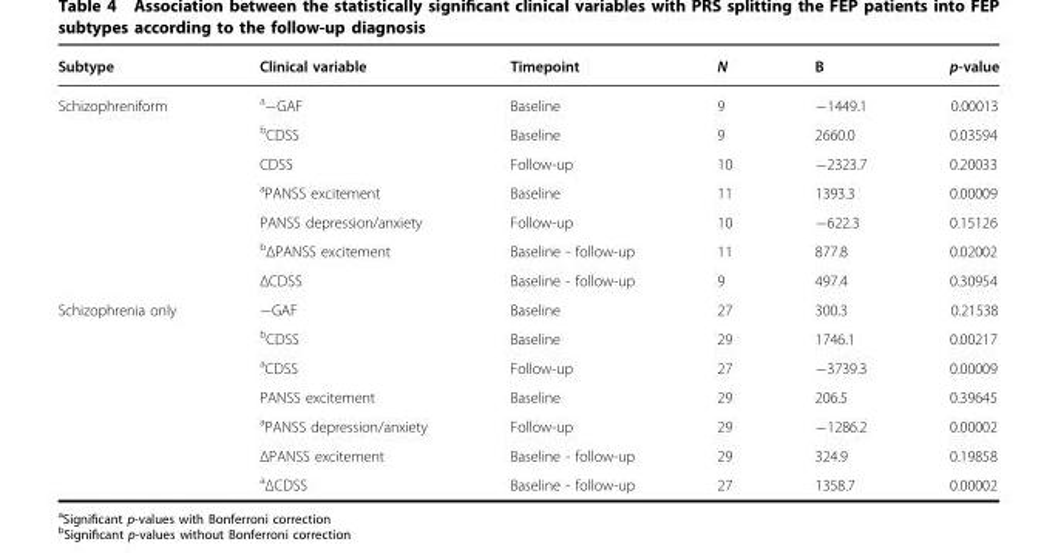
<table><thead><tr><td>Subtype</td><td>Clinical variable</td><td>Timepoint</td><td>N</td><td>B</td><td>p-value</td></tr></thead><tbody><tr><td rowspan="7">Schizophreniform</td><td><sup>a</sup>−GAF</td><td>Baseline</td><td>9</td><td>−1449.1</td><td>0.00013</td></tr><tr><td><sup>b</sup>CDSS</td><td>Baseline</td><td>9</td><td>2660.0</td><td>0.03594</td></tr><tr><td>CDSS</td><td>Follow-up</td><td>10</td><td>−2323.7</td><td>0.20033</td></tr><tr><td><sup>a</sup>PANSS excitement</td><td>Baseline</td><td>11</td><td>1393.3</td><td>0.00009</td></tr><tr><td>PANSS depression/anxiety</td><td>Follow-up</td><td>10</td><td>−622.3</td><td>0.15126</td></tr><tr><td><sup>b</sup>ΔPANSS excitement</td><td>Baseline - follow-up</td><td>11</td><td>877.8</td><td>0.02002</td></tr><tr><td>ΔCDSS</td><td>Baseline - follow-up</td><td>9</td><td>497.4</td><td>0.30954</td></tr><tr><td rowspan="7">Schizophrenia only</td><td>−GAF</td><td>Baseline</td><td>27</td><td>300.3</td><td>0.21538</td></tr><tr><td><sup>b</sup>CDSS</td><td>Baseline</td><td>29</td><td>1746.1</td><td>0.00217</td></tr><tr><td><sup>a</sup>CDSS</td><td>Follow-up</td><td>27</td><td>−3739.3</td><td>0.00009</td></tr><tr><td>PANSS excitement</td><td>Baseline</td><td>29</td><td>206.5</td><td>0.39645</td></tr><tr><td><sup>a</sup>PANSS depression/anxiety</td><td>Follow-up</td><td>29</td><td>−1286.2</td><td>0.00002</td></tr><tr><td>ΔPANSS excitement</td><td>Baseline - follow-up</td><td>29</td><td>324.9</td><td>0.19858</td></tr><tr><td><sup>a</sup>ΔCDSS</td><td>Baseline - follow-up</td><td>27</td><td>1358.7</td><td>0.00002</td></tr></tbody></table>